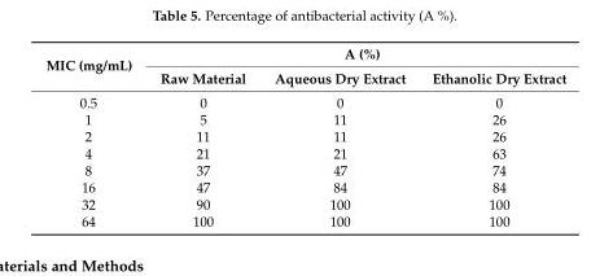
<table><thead><tr><td rowspan="2">MIC (mg/mL)</td><td colspan="3">A (%)</td></tr><tr><td>Raw Material</td><td>Aqueous Dry Extract</td><td>Ethanolic Dry Extract</td></tr></thead><tbody><tr><td>0.5</td><td>0</td><td>0</td><td>0</td></tr><tr><td>1</td><td>5</td><td>11</td><td>26</td></tr><tr><td>2</td><td>11</td><td>11</td><td>26</td></tr><tr><td>4</td><td>21</td><td>21</td><td>63</td></tr><tr><td>8</td><td>37</td><td>47</td><td>74</td></tr><tr><td>16</td><td>47</td><td>84</td><td>84</td></tr><tr><td>32</td><td>90</td><td>100</td><td>100</td></tr><tr><td>64</td><td>100</td><td>100</td><td>100</td></tr></tbody></table>